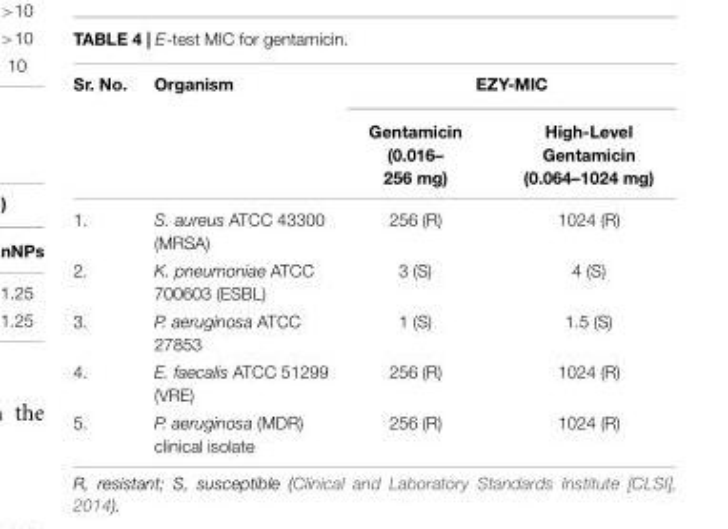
<table><thead><tr><td rowspan="2">Sr. No.</td><td rowspan="2">Organism</td><td colspan="2">EZY-MIC</td></tr><tr><td>Gentamicin (0.016– 256 mg)</td><td>High-Level Gentamicin (0.064–1024 mg)</td></tr></thead><tbody><tr><td>1.</td><td>S. aureus ATCC 43300 (MRSA)</td><td>256 (R)</td><td>1024 (R)</td></tr><tr><td>2.</td><td>K. pneumoniae ATCC 700603 (ESBL)</td><td>3 (S)</td><td>4 (S)</td></tr><tr><td>3.</td><td>P. aeruginosa ATCC 27853</td><td>1 (S)</td><td>1.5 (S)</td></tr><tr><td>4.</td><td>E. faecalis ATCC 51299 (VRE)</td><td>256 (R)</td><td>1024 (R)</td></tr><tr><td>5.</td><td>P. aeruginosa (MDR) clinical isolate</td><td>256 (R)</td><td>1024 (R)</td></tr></tbody></table>